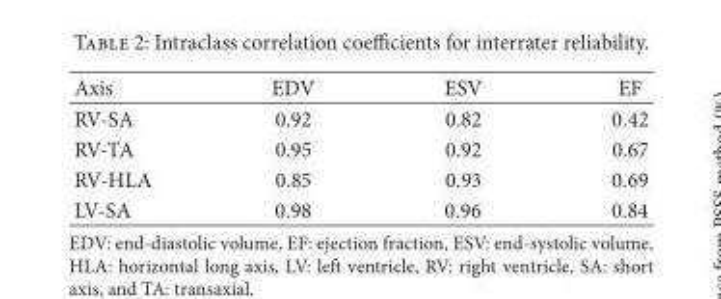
<table><thead><tr><td>Axis</td><td>EDV</td><td>ESV</td><td>EF</td></tr></thead><tbody><tr><td>RV-SA</td><td>0.92</td><td>0.82</td><td>0.42</td></tr><tr><td>RV-TA</td><td>0.95</td><td>0.92</td><td>0.67</td></tr><tr><td>RV-HLA</td><td>0.85</td><td>0.93</td><td>0.69</td></tr><tr><td>LV-SA</td><td>0.98</td><td>0.96</td><td>0.84</td></tr></tbody></table>